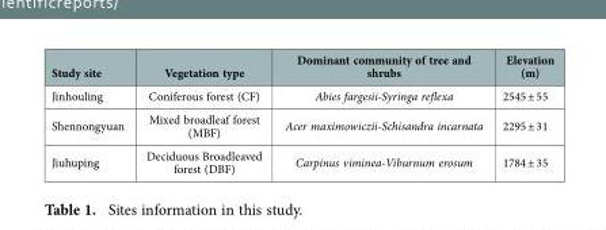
<table><thead><tr><td>Study site</td><td>Vegetation type</td><td>Dominant community of tree and shrubs</td><td>Elevation (m)</td></tr></thead><tbody><tr><td>Jinhouling</td><td>Coniferous forest (CF)</td><td>Abies fargesii-Syringa reflexa</td><td>2545 ± 55</td></tr><tr><td>Shennongyuan</td><td>Mixed broadleaf forest (MBF)</td><td>Acer maximowiczii-Schisandra incarnata</td><td>2295 ± 31</td></tr><tr><td>Jiuhuping</td><td>Deciduous Broadleaved forest (DBF)</td><td>Carpinus viminea-Viburnum erosum</td><td>1784 ± 35</td></tr></tbody></table>